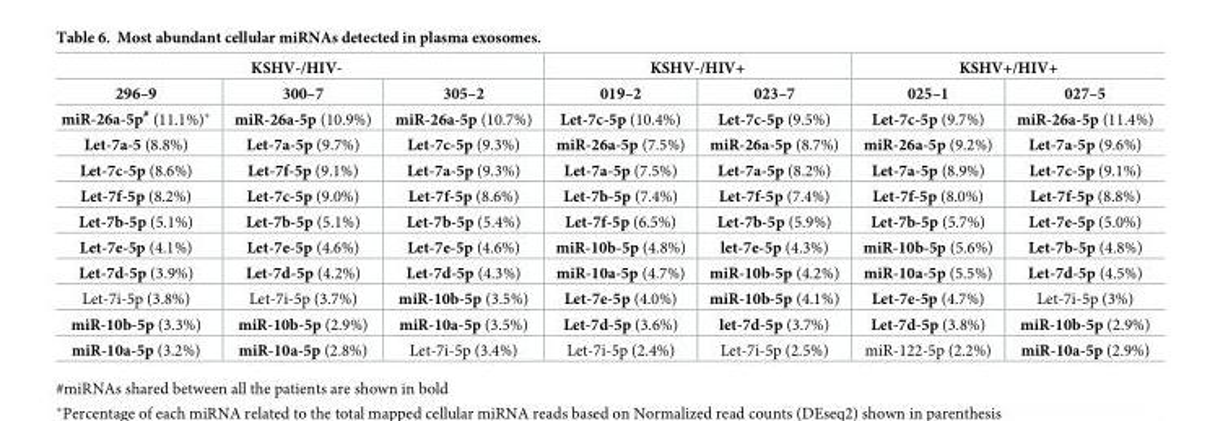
<table><thead><tr><td colspan="3">KSHV-/HIV-</td><td colspan="2">KSHV-/HIV+</td><td colspan="2">KSHV+/HIV+</td></tr><tr><td>296–9</td><td>300–7</td><td>305–2</td><td>019–2</td><td>023–7</td><td>025–1</td><td>027–5</td></tr></thead><tbody><tr><td>miR-26a-5p<sup>#</sup> (11.1%)*</td><td>miR-26a-5p (10.9%)</td><td>miR-26a-5p (10.7%)</td><td>Let-7c-5p (10.4%)</td><td>Let-7c-5p (9.5%)</td><td>Let-7c-5p (9.7%)</td><td>miR-26a-5p (11.4%)</td></tr><tr><td>Let-7a-5 (8.8%)</td><td>Let-7a-5p (9.7%)</td><td>Let-7c-5p (9.3%)</td><td>miR-26a-5p (7.5%)</td><td>miR-26a-5p (8.7%)</td><td>miR-26a-5p (9.2%)</td><td>Let-7a-5p (9.6%)</td></tr><tr><td>Let-7c-5p (8.6%)</td><td>Let-7f-5p (9.1%)</td><td>Let-7a-5p (9.3%)</td><td>Let-7a-5p (7.5%)</td><td>Let-7a-5p (8.2%)</td><td>Let-7a-5p (8.9%)</td><td>Let-7c-5p (9.1%)</td></tr><tr><td>Let-7f-5p (8.2%)</td><td>Let-7c-5p (9.0%)</td><td>Let-7f-5p (8.6%)</td><td>Let-7b-5p (7.4%)</td><td>Let-7f-5p (7.4%)</td><td>Let-7f-5p (8.0%)</td><td>Let-7f-5p (8.8%)</td></tr><tr><td>Let-7b-5p (5.1%)</td><td>Let-7b-5p (5.1%)</td><td>Let-7b-5p (5.4%)</td><td>Let-7f-5p (6.5%)</td><td>Let-7b-5p (5.9%)</td><td>Let-7b-5p (5.7%)</td><td>Let-7e-5p (5.0%)</td></tr><tr><td>Let-7e-5p (4.1%)</td><td>Let-7e-5p (4.6%)</td><td>Let-7e-5p (4.6%)</td><td>miR-10b-5p (4.8%)</td><td>let-7e-5p (4.3%)</td><td>miR-10b-5p (5.6%)</td><td>Let-7b-5p (4.8%)</td></tr><tr><td>Let-7d-5p (3.9%)</td><td>Let-7d-5p (4.2%)</td><td>Let-7d-5p (4.3%)</td><td>miR-10a-5p (4.7%)</td><td>miR-10b-5p (4.2%)</td><td>miR-10a-5p (5.5%)</td><td>Let-7d-5p (4.5%)</td></tr><tr><td>Let-7i-5p (3.8%)</td><td>Let-7i-5p (3.7%)</td><td>miR-10b-5p (3.5%)</td><td>Let-7e-5p (4.0%)</td><td>miR-10b-5p (4.1%)</td><td>Let-7e-5p (4.7%)</td><td>Let-7i-5p (3%)</td></tr><tr><td>miR-10b-5p (3.3%)</td><td>miR-10b-5p (2.9%)</td><td>miR-10a-5p (3.5%)</td><td>Let-7d-5p (3.6%)</td><td>let-7d-5p (3.7%)</td><td>Let-7d-5p (3.8%)</td><td>miR-10b-5p (2.9%)</td></tr><tr><td>miR-10a-5p (3.2%)</td><td>miR-10a-5p (2.8%)</td><td>Let-7i-5p (3.4%)</td><td>Let-7i-5p (2.4%)</td><td>Let-7i-5p (2.5%)</td><td>miR-122-5p (2.2%)</td><td>miR-10a-5p (2.9%)</td></tr></tbody></table>